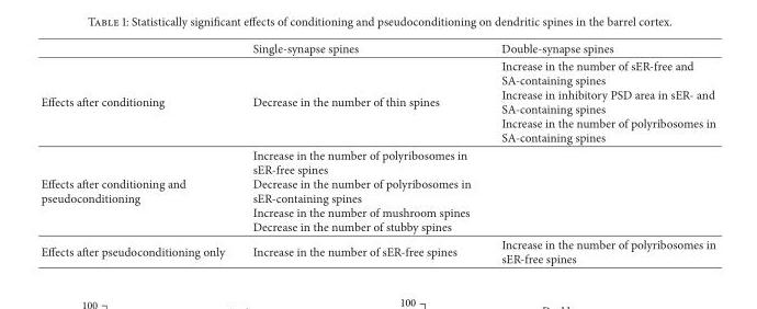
<table><thead><tr><td></td><td>Single-synapse spines</td><td>Double-synapse spines</td></tr></thead><tbody><tr><td>Effects after conditioning</td><td>Decrease in the number of thin spines</td><td>Increase in the number of sER-free and SA-containing spines Increase in inhibitory PSD area in sER- and SA-containing spines Increase in the number of polyribosomes in SA-containing spines</td></tr><tr><td>Effects after conditioning and pseudoconditioning</td><td>Increase in the number of polyribosomes in sER-free spines Decrease in the number of polyribosomes in sER-containing spines Increase in the number of mushroom spines Decrease in the number of stubby spines</td><td></td></tr><tr><td>Effects after pseudoconditioning only</td><td>Increase in the number of sER-free spines</td><td>Increase in the number of polyribosomes in sER-free spines</td></tr></tbody></table>